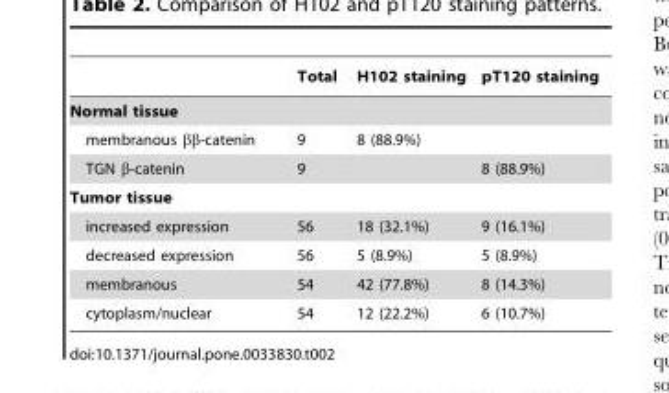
<table><thead><tr><td></td><td>Total</td><td>H102 staining</td><td>pT120 staining</td></tr></thead><tbody><tr><td colspan="4">Normal tissue</td></tr><tr><td>membranous ββ-catenin</td><td>9</td><td>8 (88.9%)</td><td></td></tr><tr><td>TGN β-catenin</td><td>9</td><td></td><td>8 (88.9%)</td></tr><tr><td colspan="4">Tumor tissue</td></tr><tr><td>increased expression</td><td>56</td><td>18 (32.1%)</td><td>9 (16.1%)</td></tr><tr><td>decreased expression</td><td>56</td><td>5 (8.9%)</td><td>5 (8.9%)</td></tr><tr><td>membranous</td><td>54</td><td>42 (77.8%)</td><td>8 (14.3%)</td></tr><tr><td>cytoplasm/nuclear</td><td>54</td><td>12 (22.2%)</td><td>6 (10.7%)</td></tr></tbody></table>